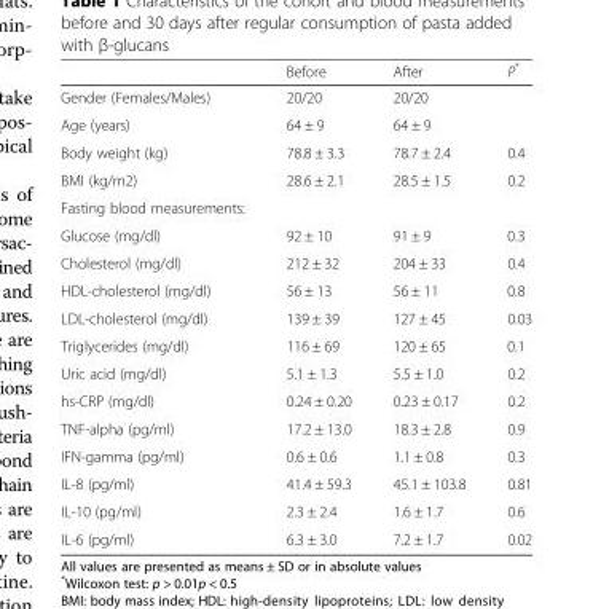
<table><thead><tr><td></td><td>Before</td><td>After</td><td>P*</td></tr></thead><tbody><tr><td>Gender (Females/Males)</td><td>20/20</td><td>20/20</td><td></td></tr><tr><td>Age (years)</td><td>64 ± 9</td><td>64 ± 9</td><td></td></tr><tr><td>Body weight (kg)</td><td>78.8 ± 3.3</td><td>78.7 ± 2.4</td><td>0.4</td></tr><tr><td>BMI (kg/m2)</td><td>28.6 ± 2.1</td><td>28.5 ± 1.5</td><td>0.2</td></tr><tr><td colspan="4">Fasting blood measurements:</td></tr><tr><td>Glucose (mg/dl)</td><td>92 ± 10</td><td>91 ± 9</td><td>0.3</td></tr><tr><td>Cholesterol (mg/dl)</td><td>212 ± 32</td><td>204 ± 33</td><td>0.4</td></tr><tr><td>HDL-cholesterol (mg/dl)</td><td>56 ± 13</td><td>56 ± 11</td><td>0.8</td></tr><tr><td>LDL-cholesterol (mg/dl)</td><td>139 ± 39</td><td>127 ± 45</td><td>0.03</td></tr><tr><td>Triglycerides (mg/dl)</td><td>116 ± 69</td><td>120 ± 65</td><td>0.1</td></tr><tr><td>Uric acid (mg/dl)</td><td>5.1 ± 1.3</td><td>5.5 ± 1.0</td><td>0.2</td></tr><tr><td>hs-CRP (mg/dl)</td><td>0.24 ± 0.20</td><td>0.23 ± 0.17</td><td>0.2</td></tr><tr><td>TNF-alpha (pg/ml)</td><td>17.2 ± 13.0</td><td>18.3 ± 2.8</td><td>0.9</td></tr><tr><td>IFN-gamma (pg/ml)</td><td>0.6 ± 0.6</td><td>1.1 ± 0.8</td><td>0.3</td></tr><tr><td>IL-8 (pg/ml)</td><td>41.4 ± 59.3</td><td>45.1 ± 103.8</td><td>0.81</td></tr><tr><td>IL-10 (pg/ml)</td><td>2.3 ± 2.4</td><td>1.6 ± 1.7</td><td>0.6</td></tr><tr><td>IL-6 (pg/ml)</td><td>6.3 ± 3.0</td><td>7.2 ± 1.7</td><td>0.02</td></tr></tbody></table>